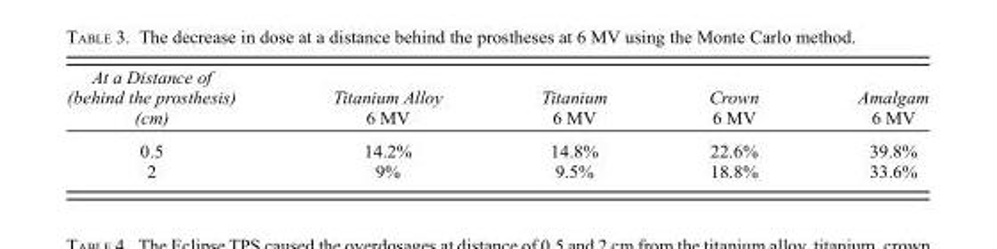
<table><thead><tr><td>At a Distance of (behind the prosthesis) (cm)</td><td>Titanium Alloy 6 MV</td><td>Titanium 6 MV</td><td>Crown 6 MV</td><td>Amalgam 6 MV</td></tr></thead><tbody><tr><td>0.5</td><td>14.2%</td><td>14.8%</td><td>22.6%</td><td>39.8%</td></tr><tr><td>2</td><td>9%</td><td>9.5%</td><td>18.8%</td><td>33.6%</td></tr></tbody></table>